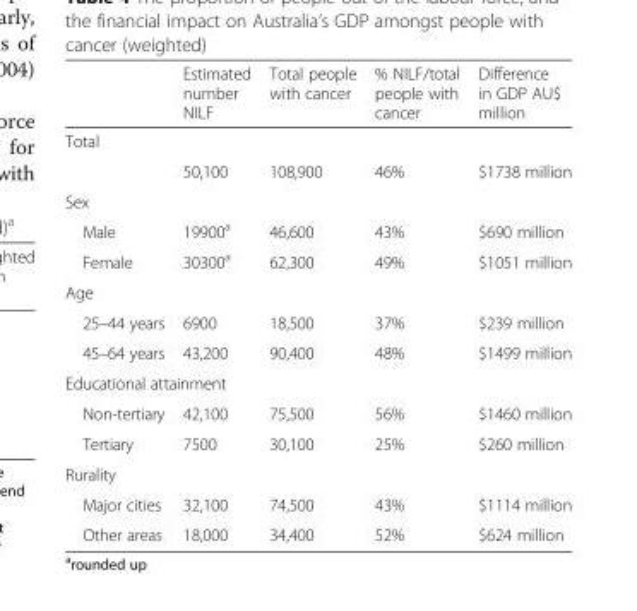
<table><thead><tr><td></td><td>Estimated number NILF</td><td>Total people with cancer</td><td>% NILF/total people with cancer</td><td>Difference in GDP AU$ million</td></tr></thead><tbody><tr><td colspan="5">Total</td></tr><tr><td></td><td>50,100</td><td>108,900</td><td>46%</td><td>$1738 million</td></tr><tr><td colspan="5">Sex</td></tr><tr><td>Male</td><td>19900<sup>a</sup></td><td>46,600</td><td>43%</td><td>$690 million</td></tr><tr><td>Female</td><td>30300<sup>a</sup></td><td>62,300</td><td>49%</td><td>$1051 million</td></tr><tr><td colspan="5">Age</td></tr><tr><td>25–44 years</td><td>6900</td><td>18,500</td><td>37%</td><td>$239 million</td></tr><tr><td>45–64 years</td><td>43,200</td><td>90,400</td><td>48%</td><td>$1499 million</td></tr><tr><td colspan="5">Educational attainment</td></tr><tr><td>Non-tertiary</td><td>42,100</td><td>75,500</td><td>56%</td><td>$1460 million</td></tr><tr><td>Tertiary</td><td>7500</td><td>30,100</td><td>25%</td><td>$260 million</td></tr><tr><td colspan="5">Rurality</td></tr><tr><td>Major cities</td><td>32,100</td><td>74,500</td><td>43%</td><td>$1114 million</td></tr><tr><td>Other areas</td><td>18,000</td><td>34,400</td><td>52%</td><td>$624 million</td></tr></tbody></table>